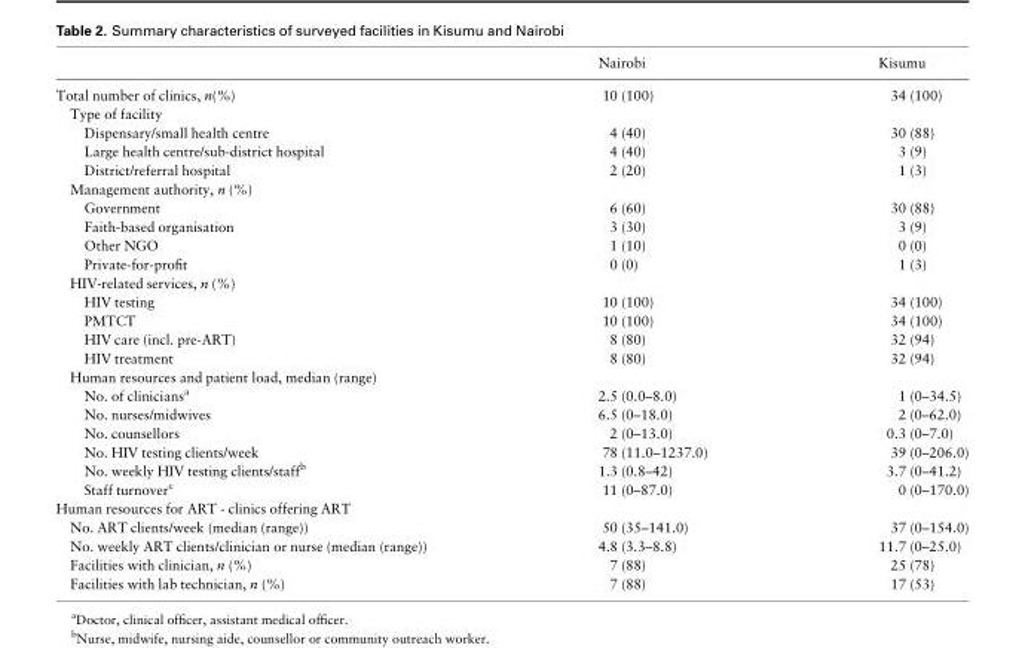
<table><thead><tr><td></td><td>Nairobi</td><td>Kisumu</td></tr></thead><tbody><tr><td>Total number of clinics, n(%)</td><td>10 (100)</td><td>34 (100)</td></tr><tr><td colspan="3">Type of facility</td></tr><tr><td>Dispensary/small health centre</td><td>4 (40)</td><td>30 (88)</td></tr><tr><td>Large health centre/sub-district hospital</td><td>4 (40)</td><td>3 (9)</td></tr><tr><td>District/referral hospital</td><td>2 (20)</td><td>1 (3)</td></tr><tr><td colspan="3">Management authority, n (%)</td></tr><tr><td>Government</td><td>6 (60)</td><td>30 (88)</td></tr><tr><td>Faith-based organisation</td><td>3 (30)</td><td>3 (9)</td></tr><tr><td>Other NGO</td><td>1 (10)</td><td>0 (0)</td></tr><tr><td>Private-for-profit</td><td>0 (0)</td><td>1 (3)</td></tr><tr><td colspan="3">HIV-related services, n (%)</td></tr><tr><td>HIV testing</td><td>10 (100)</td><td>34 (100)</td></tr><tr><td>PMTCT</td><td>10 (100)</td><td>34 (100)</td></tr><tr><td>HIV care (incl. pre-ART)</td><td>8 (80)</td><td>32 (94)</td></tr><tr><td>HIV treatment</td><td>8 (80)</td><td>32 (94)</td></tr><tr><td colspan="3">Human resources and patient load, median (range)</td></tr><tr><td>No. of clinicians<sup>a</sup></td><td>2.5 (0.0–8.0)</td><td>1 (0–34.5)</td></tr><tr><td>No. nurses/midwives</td><td>6.5 (0–18.0)</td><td>2 (0–62.0)</td></tr><tr><td>No. counsellors</td><td>2 (0–13.0)</td><td>0.3 (0–7.0)</td></tr><tr><td>No. HIV testing clients/week</td><td>78 (11.0–1237.0)</td><td>39 (0–206.0)</td></tr><tr><td>No. weekly HIV testing clients/staff<sup>b</sup></td><td>1.3 (0.8–42)</td><td>3.7 (0–41.2)</td></tr><tr><td>Staff turnover<sup>c</sup></td><td>11 (0–87.0)</td><td>0 (0–170.0)</td></tr><tr><td colspan="3">Human resources for ART - clinics offering ART</td></tr><tr><td>No. ART clients/week (median (range))</td><td>50 (35–141.0)</td><td>37 (0–154.0)</td></tr><tr><td>No. weekly ART clients/clinician or nurse (median (range))</td><td>4.8 (3.3–8.8)</td><td>11.7 (0–25.0)</td></tr><tr><td>Facilities with clinician, n (%)</td><td>7 (88)</td><td>25 (78)</td></tr><tr><td>Facilities with lab technician, n (%)</td><td>7 (88)</td><td>17 (53)</td></tr></tbody></table>